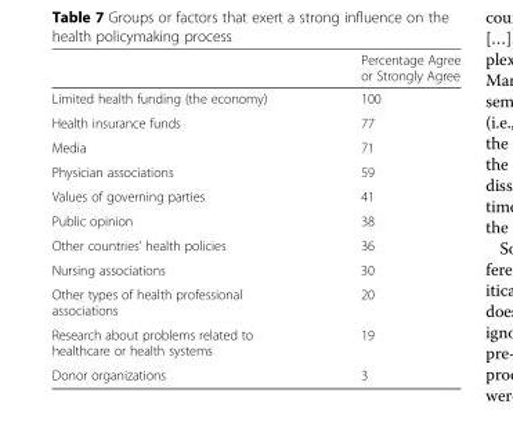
<table><thead><tr><td></td><td>Percentage Agree or Strongly Agree</td></tr></thead><tbody><tr><td>Limited health funding (the economy)</td><td>100</td></tr><tr><td>Health insurance funds</td><td>77</td></tr><tr><td>Media</td><td>71</td></tr><tr><td>Physician associations</td><td>59</td></tr><tr><td>Values of governing parties</td><td>41</td></tr><tr><td>Public opinion</td><td>38</td></tr><tr><td>Other countries’ health policies</td><td>36</td></tr><tr><td>Nursing associations</td><td>30</td></tr><tr><td>Other types of health professional associations</td><td>20</td></tr><tr><td>Research about problems related to healthcare or health systems</td><td>19</td></tr><tr><td>Donor organizations</td><td>3</td></tr></tbody></table>